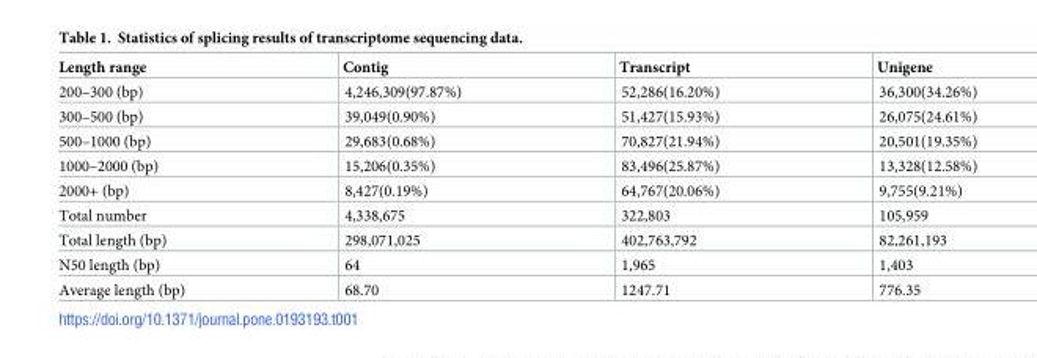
<table><thead><tr><td>Length range</td><td>Contig</td><td>Transcript</td><td>Unigene</td></tr></thead><tbody><tr><td>200–300 (bp)</td><td>4,246,309(97.87%)</td><td>52,286(16.20%)</td><td>36,300(34.26%)</td></tr><tr><td>300–500 (bp)</td><td>39,049(0.90%)</td><td>51,427(15.93%)</td><td>26,075(24.61%)</td></tr><tr><td>500–1000 (bp)</td><td>29,683(0.68%)</td><td>70,827(21.94%)</td><td>20,501(19.35%)</td></tr><tr><td>1000–2000 (bp)</td><td>15,206(0.35%)</td><td>83,496(25.87%)</td><td>13,328(12.58%)</td></tr><tr><td>2000+ (bp)</td><td>8,427(0.19%)</td><td>64,767(20.06%)</td><td>9,755(9.21%)</td></tr><tr><td>Total number</td><td>4,338,675</td><td>322,803</td><td>105,959</td></tr><tr><td>Total length (bp)</td><td>298,071,025</td><td>402,763,792</td><td>82,261,193</td></tr><tr><td>N50 length (bp)</td><td>64</td><td>1,965</td><td>1,403</td></tr><tr><td>Average length (bp)</td><td>68.70</td><td>1247.71</td><td>776.35</td></tr></tbody></table>